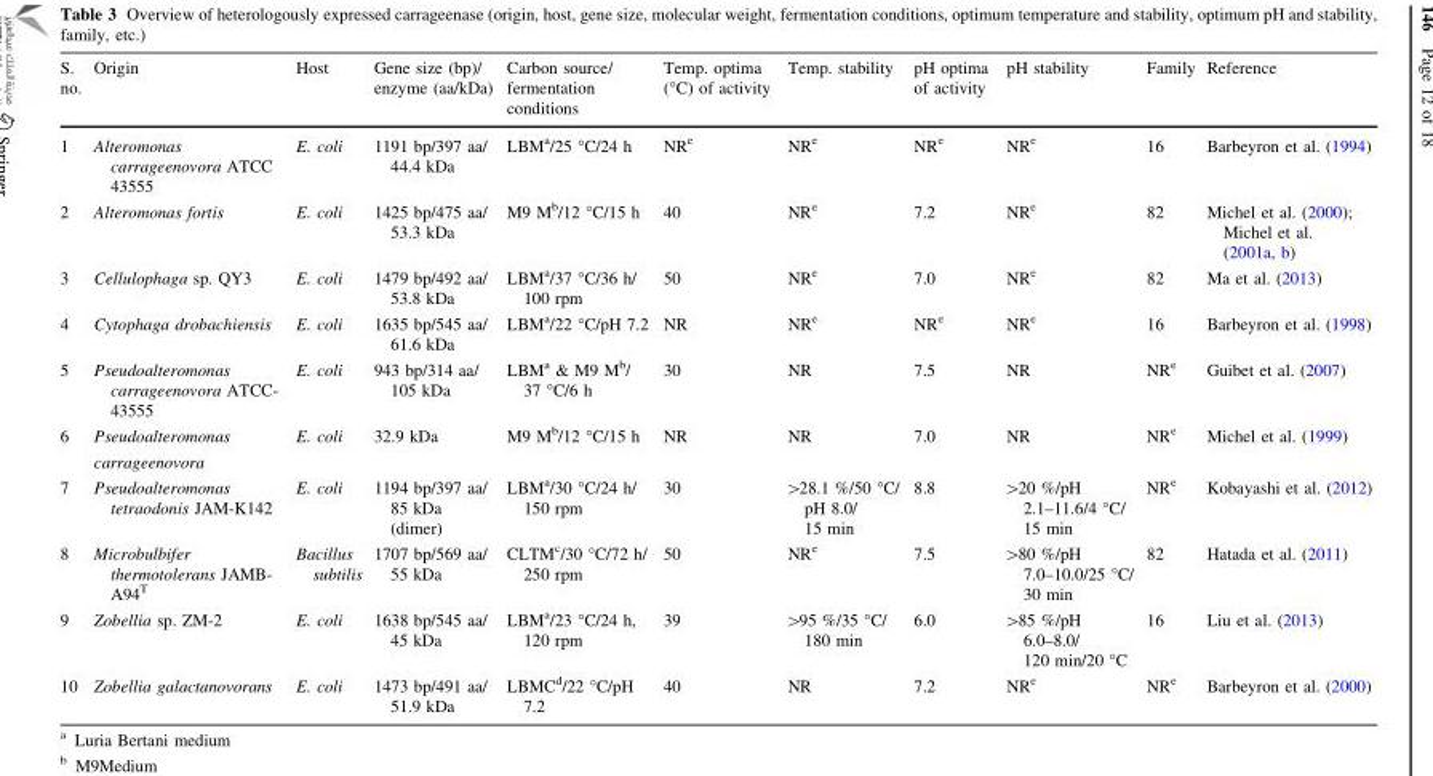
<table><thead><tr><td>S. no.</td><td>Origin</td><td>Host</td><td>Gene size (bp)/ enzyme (aa/kDa)</td><td>Carbon source/ fermentation conditions</td><td>Temp. optima (°C) of activity</td><td>Temp. stability</td><td>pH optima of activity</td><td>pH stability</td><td>Family</td><td>Reference</td></tr></thead><tbody><tr><td>1</td><td>Alteromonas carrageenovora ATCC 43555</td><td>E. coli</td><td>1191 bp/397 aa/ 44.4 kDa</td><td>LBM<sup>a</sup>/25 °C/24 h</td><td>NR<sup>e</sup></td><td>NR<sup>e</sup></td><td>NR<sup>e</sup></td><td>NR<sup>e</sup></td><td>16</td><td>Barbeyron et al. (1994)</td></tr><tr><td>2</td><td>Alteromonas fortis</td><td>E. coli</td><td>1425 bp/475 aa/ 53.3 kDa</td><td>M9 M<sup>b</sup>/12 °C/15 h</td><td>40</td><td>NR<sup>e</sup></td><td>7.2</td><td>NR<sup>e</sup></td><td>82</td><td>Michel et al. (2000); Michel et al. (2001a, b)</td></tr><tr><td>3</td><td>Cellulophaga sp. QY3</td><td>E. coli</td><td>1479 bp/492 aa/ 53.8 kDa</td><td>LBM<sup>a</sup>/37 °C/36 h/ 100 rpm</td><td>50</td><td>NR<sup>e</sup></td><td>7.0</td><td>NR<sup>e</sup></td><td>82</td><td>Ma et al. (2013)</td></tr><tr><td>4</td><td>Cytophaga drobachiensis</td><td>E. coli</td><td>1635 bp/545 aa/ 61.6 kDa</td><td>LBM<sup>a</sup>/22 °C/pH 7.2</td><td>NR</td><td>NR<sup>e</sup></td><td>NR<sup>e</sup></td><td>NR<sup>e</sup></td><td>16</td><td>Barbeyron et al. (1998)</td></tr><tr><td>5</td><td>Pseudoalteromonas carrageenovora ATCC- 43555</td><td>E. coli</td><td>943 bp/314 aa/ 105 kDa</td><td>LBM<sup>a</sup> &amp; M9 M<sup>b</sup>/ 37 °C/6 h</td><td>30</td><td>NR</td><td>7.5</td><td>NR</td><td>NR<sup>e</sup></td><td>Guibet et al. (2007)</td></tr><tr><td>6</td><td>Pseudoalteromonas carrageenovora</td><td>E. coli</td><td>32.9 kDa</td><td>M9 M<sup>b</sup>/12 °C/15 h</td><td>NR</td><td>NR</td><td>7.0</td><td>NR</td><td>NR<sup>e</sup></td><td>Michel et al. (1999)</td></tr><tr><td>7</td><td>Pseudoalteromonas tetraodonis JAM-K142</td><td>E. coli</td><td>1194 bp/397 aa/ 85 kDa (dimer)</td><td>LBM<sup>a</sup>/30 °C/24 h/ 150 rpm</td><td>30</td><td>&gt;28.1 %/50 °C/ pH 8.0/ 15 min</td><td>8.8</td><td>&gt;20 %/pH 2.1–11.6/4 °C/ 15 min</td><td>NR<sup>e</sup></td><td>Kobayashi et al. (2012)</td></tr><tr><td>8</td><td>Microbulbifer thermotolerans JAMB- A94<sup>T</sup></td><td>Bacillus subtilis</td><td>1707 bp/569 aa/ 55 kDa</td><td>CLTM<sup>c</sup>/30 °C/72 h/ 250 rpm</td><td>50</td><td>NR<sup>e</sup></td><td>7.5</td><td>&gt;80 %/pH 7.0–10.0/25 °C/ 30 min</td><td>82</td><td>Hatada et al. (2011)</td></tr><tr><td>9</td><td>Zobellia sp. ZM-2</td><td>E. coli</td><td>1638 bp/545 aa/ 45 kDa</td><td>LBM<sup>a</sup>/23 °C/24 h, 120 rpm</td><td>39</td><td>&gt;95 %/35 °C/ 180 min</td><td>6.0</td><td>&gt;85 %/pH 6.0–8.0/ 120 min/20 °C</td><td>16</td><td>Liu et al. (2013)</td></tr><tr><td>10</td><td>Zobellia galactanovorans</td><td>E. coli</td><td>1473 bp/491 aa/ 51.9 kDa</td><td>LBMC<sup>d</sup>/22 °C/pH 7.2</td><td>40</td><td>NR</td><td>7.2</td><td>NR<sup>e</sup></td><td>NR<sup>e</sup></td><td>Barbeyron et al. (2000)</td></tr></tbody></table>